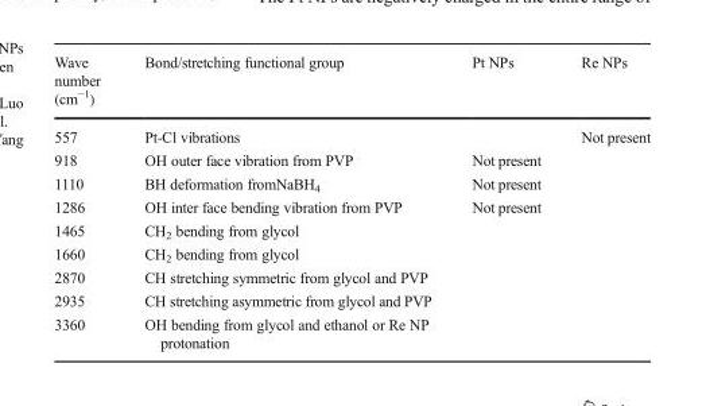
<table><thead><tr><td>Wave number (cm<sup>−1</sup>)</td><td>Bond/stretching functional group</td><td>Pt NPs</td><td>Re NPs</td></tr></thead><tbody><tr><td>557</td><td>Pt-Cl vibrations</td><td></td><td>Not present</td></tr><tr><td>918</td><td>OH outer face vibration from PVP</td><td>Not present</td><td></td></tr><tr><td>1110</td><td>BH deformation fromNaBH<sub>4</sub></td><td>Not present</td><td></td></tr><tr><td>1286</td><td>OH inter face bending vibration from PVP</td><td>Not present</td><td></td></tr><tr><td>1465</td><td>CH<sub>2</sub> bending from glycol</td><td></td><td></td></tr><tr><td>1660</td><td>CH<sub>2</sub> bending from glycol</td><td></td><td></td></tr><tr><td>2870</td><td>CH stretching symmetric from glycol and PVP</td><td></td><td></td></tr><tr><td>2935</td><td>CH stretching asymmetric from glycol and PVP</td><td></td><td></td></tr><tr><td>3360</td><td>OH bending from glycol and ethanol or Re NP protonation</td><td></td><td></td></tr></tbody></table>